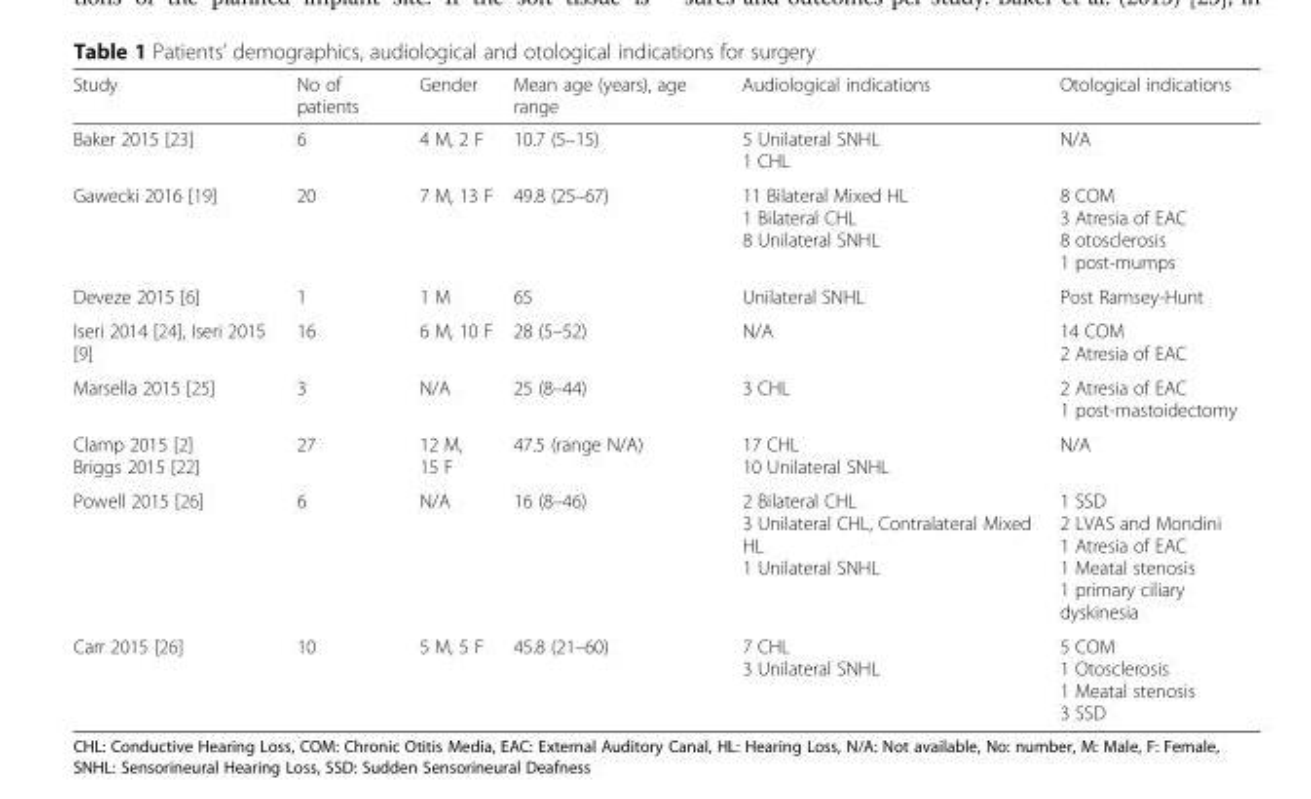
<table><thead><tr><td>Study</td><td>No of patients</td><td>Gender</td><td>Mean age (years), age range</td><td>Audiological indications</td><td>Otological indications</td></tr></thead><tbody><tr><td>Baker 2015 [23]</td><td>6</td><td>4 M, 2 F</td><td>10.7 (5–15)</td><td>5 Unilateral SNHL 1 CHL</td><td>N/A</td></tr><tr><td>Gawecki 2016 [19]</td><td>20</td><td>7 M, 13 F</td><td>49.8 (25–67)</td><td>11 Bilateral Mixed HL 1 Bilateral CHL 8 Unilateral SNHL</td><td>8 COM 3 Atresia of EAC 8 otosclerosis 1 post-mumps</td></tr><tr><td>Deveze 2015 [6]</td><td>1</td><td>1 M</td><td>65</td><td>Unilateral SNHL</td><td>Post Ramsey-Hunt</td></tr><tr><td>Iseri 2014 [24], Iseri 2015 [9]</td><td>16</td><td>6 M, 10 F</td><td>28 (5–52)</td><td>N/A</td><td>14 COM 2 Atresia of EAC</td></tr><tr><td>Marsella 2015 [25]</td><td>3</td><td>N/A</td><td>25 (8–44)</td><td>3 CHL</td><td>2 Atresia of EAC 1 post-mastoidectomy</td></tr><tr><td>Clamp 2015 [2] Briggs 2015 [22]</td><td>27</td><td>12 M, 15 F</td><td>47.5 (range N/A)</td><td>17 CHL 10 Unilateral SNHL</td><td>N/A</td></tr><tr><td>Powell 2015 [26]</td><td>6</td><td>N/A</td><td>16 (8–46)</td><td>2 Bilateral CHL 3 Unilateral CHL, Contralateral Mixed HL 1 Unilateral SNHL</td><td>1 SSD 2 LVAS and Mondini 1 Atresia of EAC 1 Meatal stenosis 1 primary ciliary dyskinesia</td></tr><tr><td>Carr 2015 [26]</td><td>10</td><td>5 M, 5 F</td><td>45.8 (21–60)</td><td>7 CHL 3 Unilateral SNHL</td><td>5 COM 1 Otosclerosis 1 Meatal stenosis 3 SSD</td></tr></tbody></table>